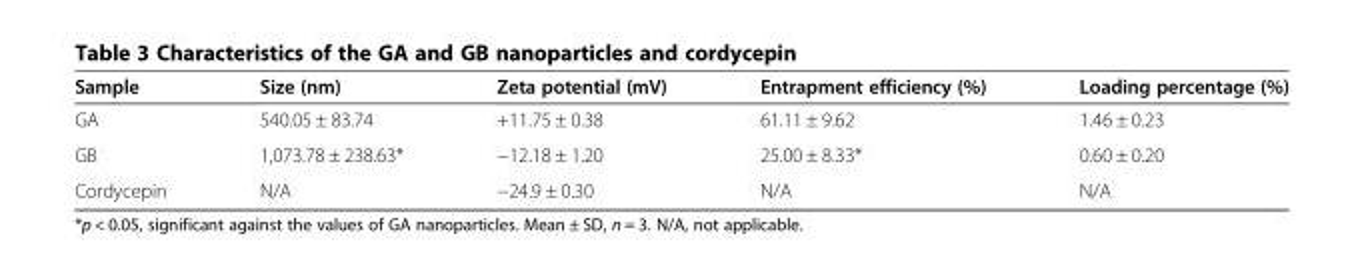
<table><thead><tr><td>Sample</td><td>Size (nm)</td><td>Zeta potential (mV)</td><td>Entrapment efficiency (%)</td><td>Loading percentage (%)</td></tr></thead><tbody><tr><td>GA</td><td>540.05 ± 83.74</td><td>+11.75 ± 0.38</td><td>61.11 ± 9.62</td><td>1.46 ± 0.23</td></tr><tr><td>GB</td><td>1,073.78 ± 238.63*</td><td>−12.18 ± 1.20</td><td>25.00 ± 8.33*</td><td>0.60 ± 0.20</td></tr><tr><td>Cordycepin</td><td>N/A</td><td>−24.9 ± 0.30</td><td>N/A</td><td>N/A</td></tr></tbody></table>